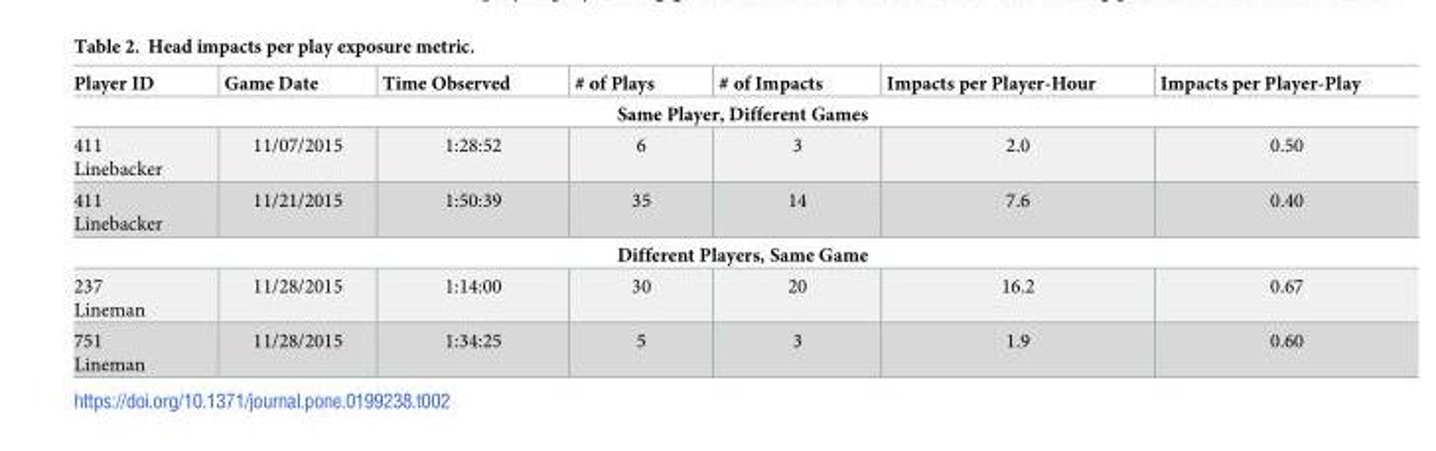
<table><thead><tr><td>Player ID</td><td>Game Date</td><td>Time Observed</td><td># of Plays</td><td># of Impacts</td><td>Impacts per Player-Hour</td><td>Impacts per Player-Play</td></tr></thead><tbody><tr><td colspan="7">Same Player, Different Games</td></tr><tr><td>411 Linebacker</td><td>11/07/2015</td><td>1:28:52</td><td>6</td><td>3</td><td>2.0</td><td>0.50</td></tr><tr><td>411 Linebacker</td><td>11/21/2015</td><td>1:50:39</td><td>35</td><td>14</td><td>7.6</td><td>0.40</td></tr><tr><td colspan="7">Different Players, Same Game</td></tr><tr><td>237 Lineman</td><td>11/28/2015</td><td>1:14:00</td><td>30</td><td>20</td><td>16.2</td><td>0.67</td></tr><tr><td>751 Lineman</td><td>11/28/2015</td><td>1:34:25</td><td>5</td><td>3</td><td>1.9</td><td>0.60</td></tr></tbody></table>